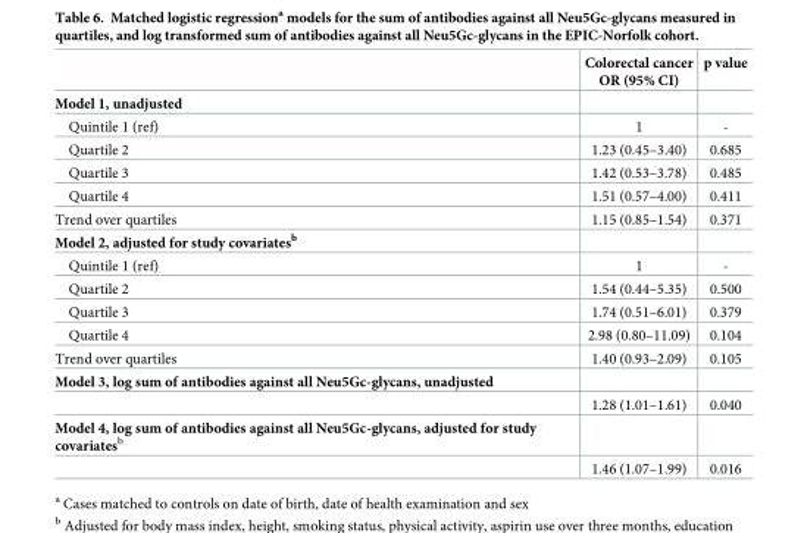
<table><thead><tr><td></td><td>Colorectal cancer OR (95% CI)</td><td>p value</td></tr></thead><tbody><tr><td colspan="3">Model 1, unadjusted</td></tr><tr><td>Quintile 1 (ref)</td><td>1</td><td>-</td></tr><tr><td>Quartile 2</td><td>1.23 (0.45–3.40)</td><td>0.685</td></tr><tr><td>Quartile 3</td><td>1.42 (0.53–3.78)</td><td>0.485</td></tr><tr><td>Quartile 4</td><td>1.51 (0.57–4.00)</td><td>0.411</td></tr><tr><td>Trend over quartiles</td><td>1.15 (0.85–1.54)</td><td>0.371</td></tr><tr><td colspan="3">Model 2, adjusted for study covariates<sup>b</sup></td></tr><tr><td>Quintile 1 (ref)</td><td>1</td><td>-</td></tr><tr><td>Quartile 2</td><td>1.54 (0.44–5.35)</td><td>0.500</td></tr><tr><td>Quartile 3</td><td>1.74 (0.51–6.01)</td><td>0.379</td></tr><tr><td>Quartile 4</td><td>2.98 (0.80–11.09)</td><td>0.104</td></tr><tr><td>Trend over quartiles</td><td>1.40 (0.93–2.09)</td><td>0.105</td></tr><tr><td colspan="3">Model 3, log sum of antibodies against all Neu5Gc-glycans, unadjusted</td></tr><tr><td></td><td>1.28 (1.01–1.61)</td><td>0.040</td></tr><tr><td colspan="3">Model 4, log sum of antibodies against all Neu5Gc-glycans, adjusted for study covariates<sup>b</sup></td></tr><tr><td></td><td>1.46 (1.07–1.99)</td><td>0.016</td></tr></tbody></table>